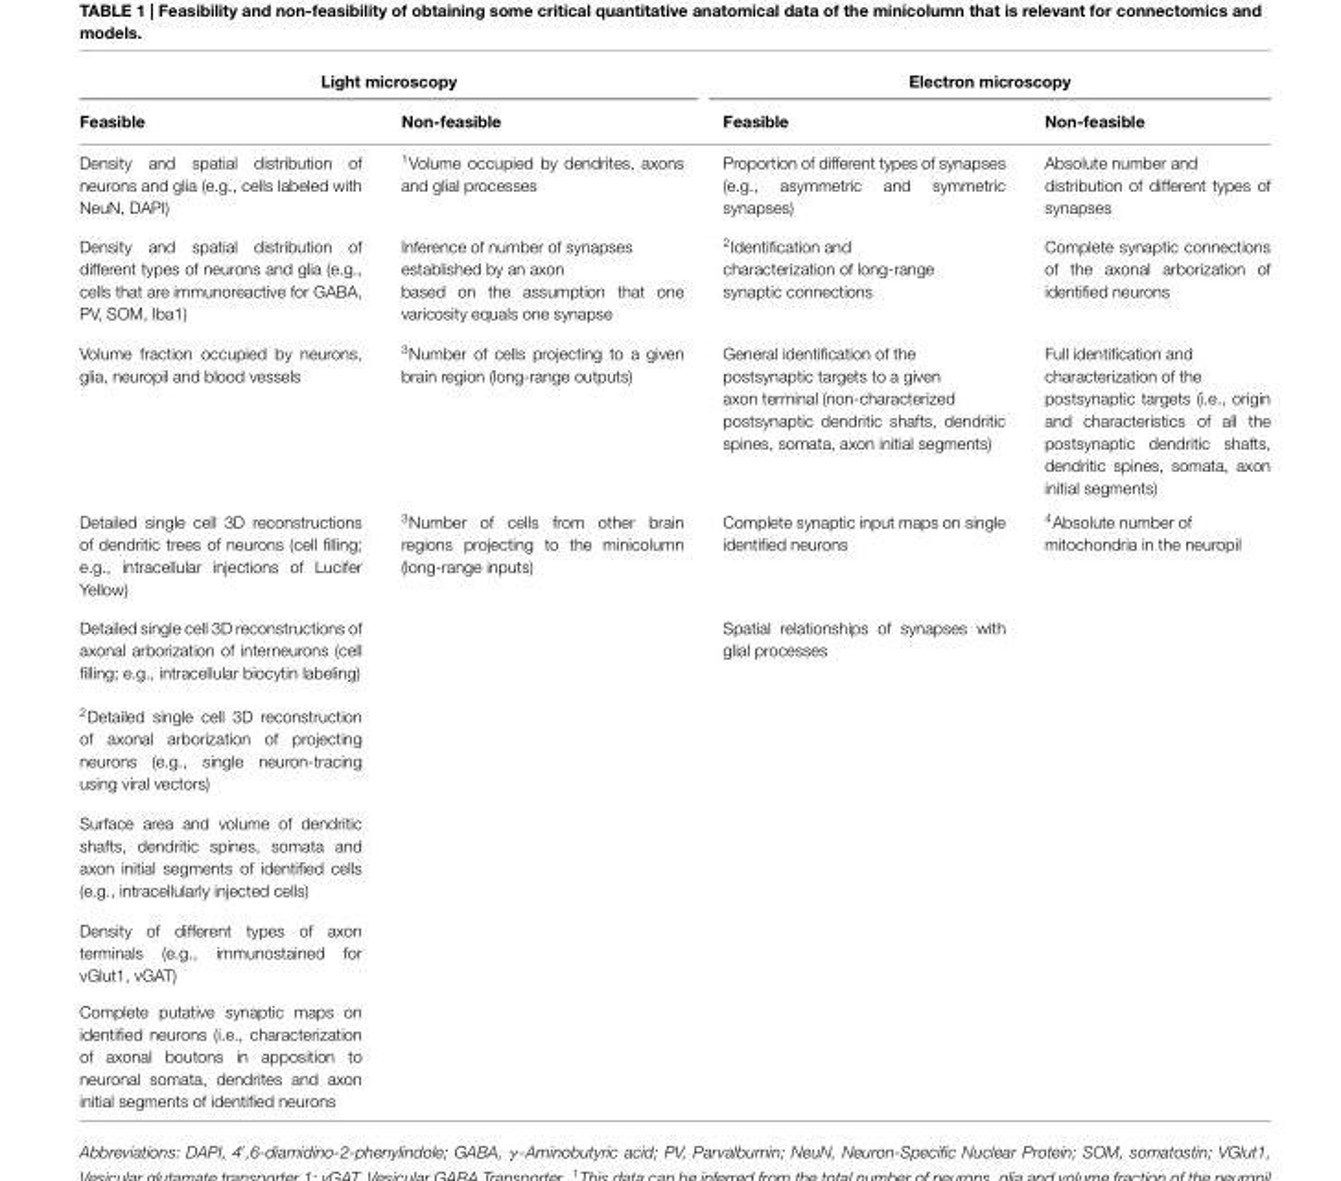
<table><thead><tr><td colspan="2">Light microscopy</td><td colspan="2">Electron microscopy</td></tr><tr><td>Feasible</td><td>Non-feasible</td><td>Feasible</td><td>Non-feasible</td></tr></thead><tbody><tr><td>Density and spatial distribution of neurons and glia (e.g., cells labeled with NeuN, DAPI)</td><td><sup>1</sup>Volume occupied by dendrites, axons and glial processes</td><td>Proportion of different types of synapses (e.g., asymmetric and symmetric synapses)</td><td>Absolute number and distribution of different types of synapses</td></tr><tr><td>Density and spatial distribution of different types of neurons and glia (e.g., cells that are immunoreactive for GABA, PV, SOM, Iba1)</td><td>Inference of number of synapses established by an axon based on the assumption that one varicosity equals one synapse</td><td><sup>2</sup>Identification and characterization of long-range synaptic connections</td><td>Complete synaptic connections of the axonal arborization of identified neurons</td></tr><tr><td>Volume fraction occupied by neurons, glia, neuropil and blood vessels</td><td><sup>3</sup>Number of cells projecting to a given brain region (long-range outputs)</td><td>General identification of the postsynaptic targets to a given axon terminal (non-characterized postsynaptic dendritic shafts, dendritic spines, somata, axon initial segments)</td><td>Full identification and characterization of the postsynaptic targets (i.e., origin and characteristics of all the postsynaptic dendritic shafts, dendritic spines, somata, axon initial segments)</td></tr><tr><td>Detailed single cell 3D reconstructions of dendritic trees of neurons (cell filling; e.g., intracellular injections of Lucifer Yellow)</td><td><sup>3</sup>Number of cells from other brain regions projecting to the minicolumn (long-range inputs)</td><td>Complete synaptic input maps on single identified neurons</td><td><sup>4</sup>Absolute number of mitochondria in the neuropil</td></tr><tr><td>Detailed single cell 3D reconstructions of axonal arborization of interneurons (cell filling; e.g., intracellular biocytin labeling)</td><td></td><td>Spatial relationships of synapses with glial processes</td><td></td></tr><tr><td colspan="4"><sup>2</sup>Detailed single cell 3D reconstruction of axonal arborization of projecting neurons (e.g., single neuron-tracing using viral vectors)</td></tr><tr><td colspan="4">Surface area and volume of dendritic shafts, dendritic spines, somata and axon initial segments of identified cells (e.g., intracellularly injected cells)</td></tr><tr><td colspan="4">Density of different types of axon terminals (e.g., immunostained for vGlut1, vGAT)</td></tr><tr><td>Complete putative synaptic maps on identified neurons (i.e., characterization of axonal boutons in apposition to neuronal somata, dendrites and axon initial segments of identified neurons</td><td></td><td></td><td></td></tr></tbody></table>